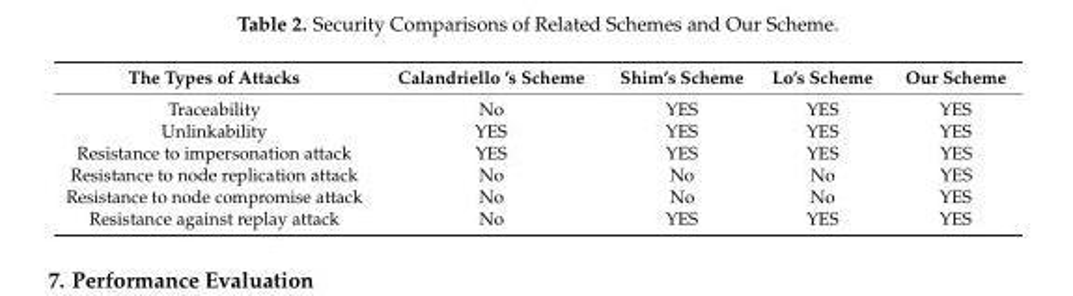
<table><thead><tr><td>The Types of Attacks</td><td>Calandriello ’s Scheme</td><td>Shim’s Scheme</td><td>Lo’s Scheme</td><td>Our Scheme</td></tr></thead><tbody><tr><td>Traceability</td><td>No</td><td>YES</td><td>YES</td><td>YES</td></tr><tr><td>Unlinkability</td><td>YES</td><td>YES</td><td>YES</td><td>YES</td></tr><tr><td>Resistance to impersonation attack</td><td>YES</td><td>YES</td><td>YES</td><td>YES</td></tr><tr><td>Resistance to node replication attack</td><td>No</td><td>No</td><td>No</td><td>YES</td></tr><tr><td>Resistance to node compromise attack</td><td>No</td><td>No</td><td>No</td><td>YES</td></tr><tr><td>Resistance against replay attack</td><td>No</td><td>YES</td><td>YES</td><td>YES</td></tr></tbody></table>